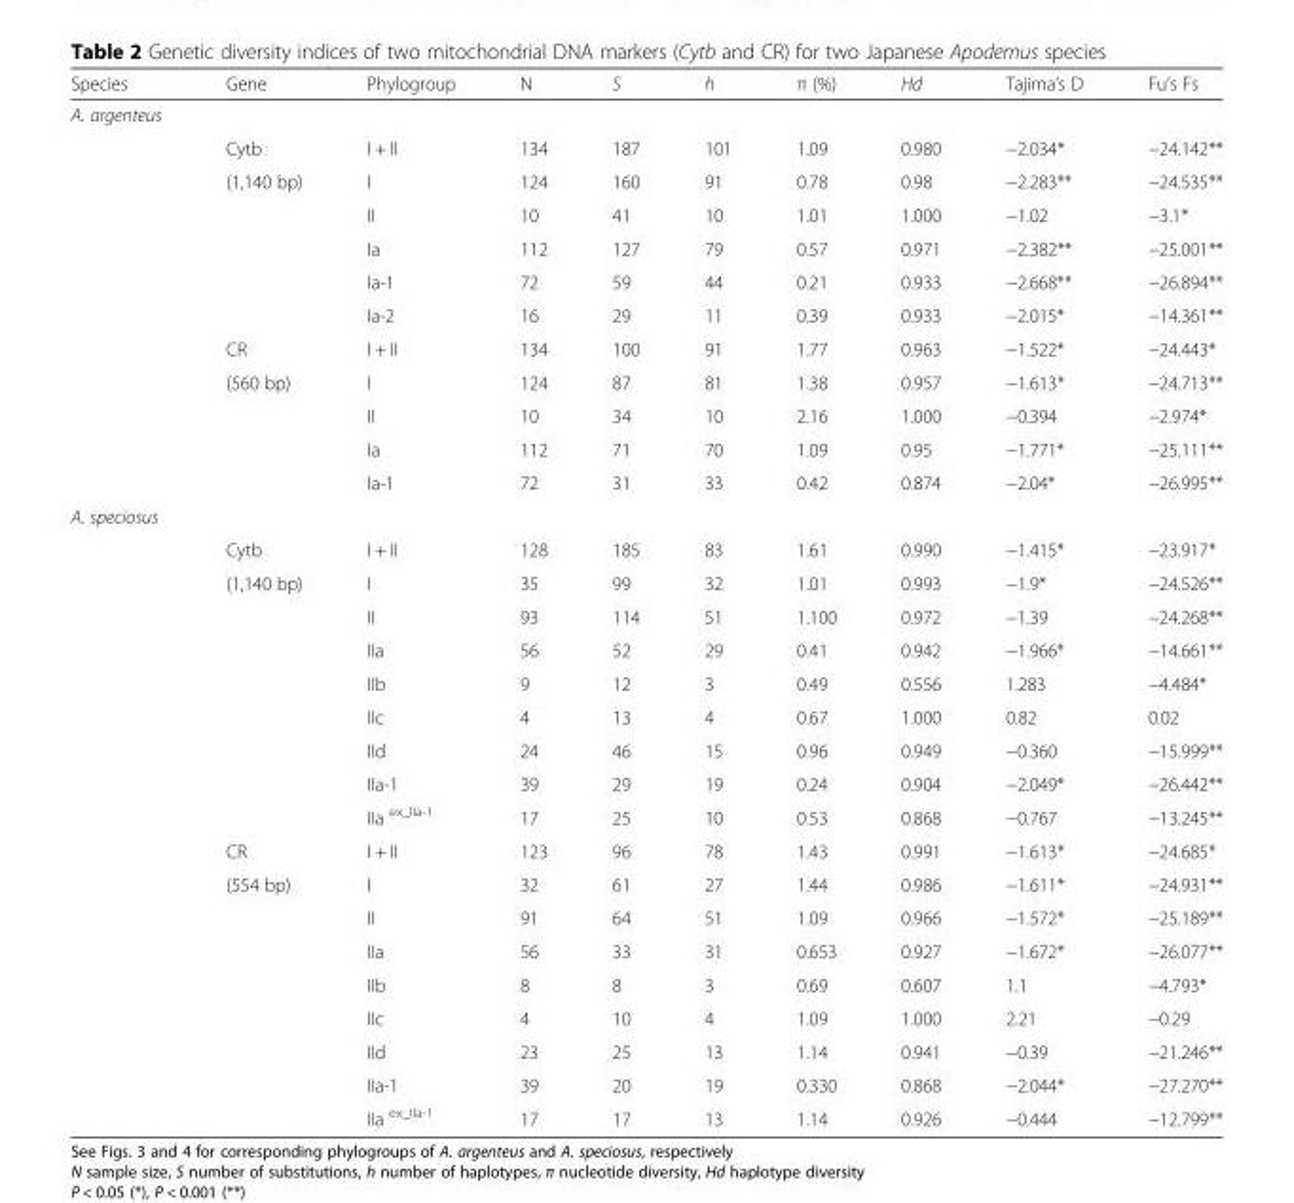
<table><thead><tr><td>Species</td><td>Gene</td><td>Phylogroup</td><td>N</td><td>S</td><td>h</td><td>π (%)</td><td>Hd</td><td>Tajima’s D</td><td>Fu’s Fs</td></tr></thead><tbody><tr><td colspan="10">A. argenteus</td></tr><tr><td></td><td>Cytb</td><td>I + II</td><td>134</td><td>187</td><td>101</td><td>1.09</td><td>0.980</td><td>−2.034*</td><td>−24.142**</td></tr><tr><td></td><td>(1,140 bp)</td><td>I</td><td>124</td><td>160</td><td>91</td><td>0.78</td><td>0.98</td><td>−2.283**</td><td>−24.535**</td></tr><tr><td></td><td></td><td>II</td><td>10</td><td>41</td><td>10</td><td>1.01</td><td>1.000</td><td>−1.02</td><td>−3.1*</td></tr><tr><td></td><td></td><td>Ia</td><td>112</td><td>127</td><td>79</td><td>0.57</td><td>0.971</td><td>−2.382**</td><td>−25.001**</td></tr><tr><td></td><td></td><td>Ia-1</td><td>72</td><td>59</td><td>44</td><td>0.21</td><td>0.933</td><td>−2.668**</td><td>−26.894**</td></tr><tr><td></td><td></td><td>Ia-2</td><td>16</td><td>29</td><td>11</td><td>0.39</td><td>0.933</td><td>−2.015*</td><td>−14.361**</td></tr><tr><td></td><td>CR</td><td>I + II</td><td>134</td><td>100</td><td>91</td><td>1.77</td><td>0.963</td><td>−1.522*</td><td>−24.443*</td></tr><tr><td></td><td>(560 bp)</td><td>I</td><td>124</td><td>87</td><td>81</td><td>1.38</td><td>0.957</td><td>−1.613*</td><td>−24.713**</td></tr><tr><td></td><td></td><td>II</td><td>10</td><td>34</td><td>10</td><td>2.16</td><td>1.000</td><td>−0.394</td><td>−2.974*</td></tr><tr><td></td><td></td><td>Ia</td><td>112</td><td>71</td><td>70</td><td>1.09</td><td>0.95</td><td>−1.771*</td><td>−25.111**</td></tr><tr><td></td><td></td><td>Ia-1</td><td>72</td><td>31</td><td>33</td><td>0.42</td><td>0.874</td><td>−2.04*</td><td>−26.995**</td></tr><tr><td colspan="10">A. speciosus</td></tr><tr><td></td><td>Cytb</td><td>I + II</td><td>128</td><td>185</td><td>83</td><td>1.61</td><td>0.990</td><td>−1.415*</td><td>−23.917*</td></tr><tr><td></td><td>(1,140 bp)</td><td>I</td><td>35</td><td>99</td><td>32</td><td>1.01</td><td>0.993</td><td>−1.9*</td><td>−24.526**</td></tr><tr><td></td><td></td><td>II</td><td>93</td><td>114</td><td>51</td><td>1.100</td><td>0.972</td><td>−1.39</td><td>−24.268**</td></tr><tr><td></td><td></td><td>IIa</td><td>56</td><td>52</td><td>29</td><td>0.41</td><td>0.942</td><td>−1.966*</td><td>−14.661**</td></tr><tr><td></td><td></td><td>IIb</td><td>9</td><td>12</td><td>3</td><td>0.49</td><td>0.556</td><td>1.283</td><td>−4.484*</td></tr><tr><td></td><td></td><td>IIc</td><td>4</td><td>13</td><td>4</td><td>0.67</td><td>1.000</td><td>0.82</td><td>0.02</td></tr><tr><td></td><td></td><td>IId</td><td>24</td><td>46</td><td>15</td><td>0.96</td><td>0.949</td><td>−0.360</td><td>−15.999**</td></tr><tr><td></td><td></td><td>IIa-1</td><td>39</td><td>29</td><td>19</td><td>0.24</td><td>0.904</td><td>−2.049*</td><td>−26.442**</td></tr><tr><td></td><td></td><td>IIa <sup>ex_IIa-1</sup></td><td>17</td><td>25</td><td>10</td><td>0.53</td><td>0.868</td><td>−0.767</td><td>−13.245**</td></tr><tr><td></td><td>CR</td><td>I + II</td><td>123</td><td>96</td><td>78</td><td>1.43</td><td>0.991</td><td>−1.613*</td><td>−24.685*</td></tr><tr><td></td><td>(554 bp)</td><td>I</td><td>32</td><td>61</td><td>27</td><td>1.44</td><td>0.986</td><td>−1.611*</td><td>−24.931**</td></tr><tr><td></td><td></td><td>II</td><td>91</td><td>64</td><td>51</td><td>1.09</td><td>0.966</td><td>−1.572*</td><td>−25.189**</td></tr><tr><td></td><td></td><td>IIa</td><td>56</td><td>33</td><td>31</td><td>0.653</td><td>0.927</td><td>−1.672*</td><td>−26.077**</td></tr><tr><td></td><td></td><td>IIb</td><td>8</td><td>8</td><td>3</td><td>0.69</td><td>0.607</td><td>1.1</td><td>−4.793*</td></tr><tr><td></td><td></td><td>IIc</td><td>4</td><td>10</td><td>4</td><td>1.09</td><td>1.000</td><td>2.21</td><td>−0.29</td></tr><tr><td></td><td></td><td>IId</td><td>23</td><td>25</td><td>13</td><td>1.14</td><td>0.941</td><td>−0.39</td><td>−21.246**</td></tr><tr><td></td><td></td><td>IIa-1</td><td>39</td><td>20</td><td>19</td><td>0.330</td><td>0.868</td><td>−2.044*</td><td>−27.270**</td></tr><tr><td></td><td></td><td>IIa <sup>ex_IIa-1</sup></td><td>17</td><td>17</td><td>13</td><td>1.14</td><td>0.926</td><td>−0.444</td><td>−12.799**</td></tr></tbody></table>